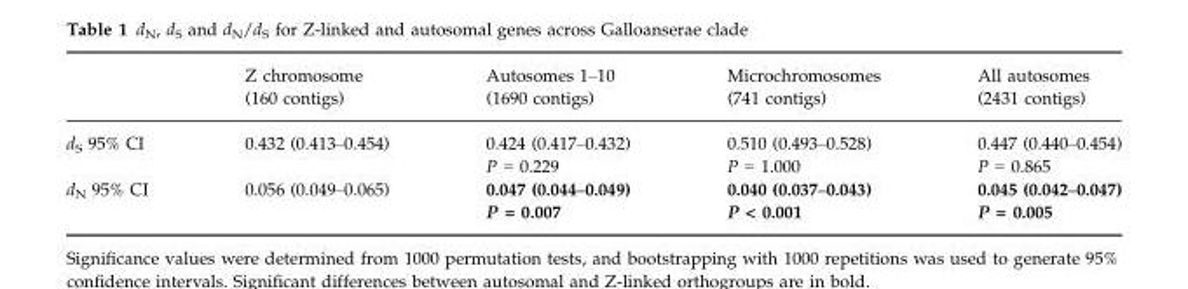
<table><thead><tr><td></td><td>Z chromosome (160 contigs)</td><td>Autosomes 1–10 (1690 contigs)</td><td>Microchromosomes (741 contigs)</td><td>All autosomes (2431 contigs)</td></tr></thead><tbody><tr><td>d<sub>S</sub> 95% CI</td><td>0.432 (0.413–0.454)</td><td>0.424 (0.417–0.432) P = 0.229</td><td>0.510 (0.493–0.528) P = 1.000</td><td>0.447 (0.440–0.454) P = 0.865</td></tr><tr><td>d<sub>N</sub> 95% CI</td><td>0.056 (0.049–0.065)</td><td>0.047 (0.044–0.049) P = 0.007</td><td>0.040 (0.037–0.043) P &lt; 0.001</td><td>0.045 (0.042–0.047) P = 0.005</td></tr></tbody></table>